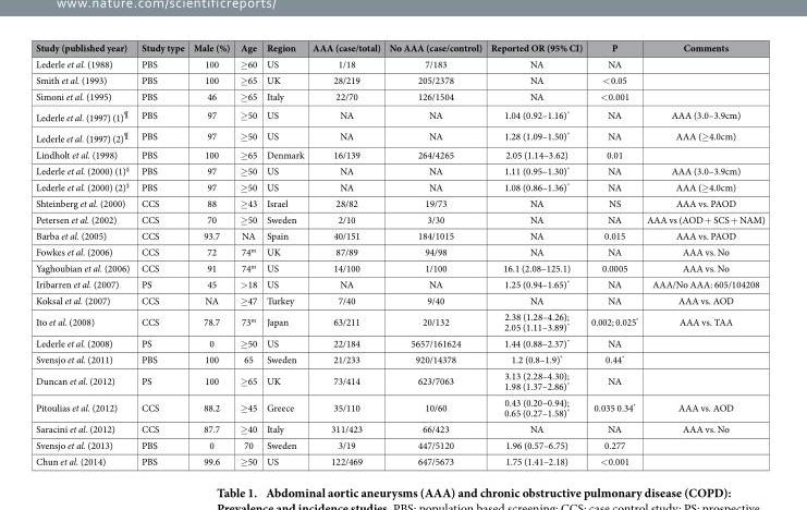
<table><thead><tr><td>Study (published year)</td><td>Study type</td><td>Male (%)</td><td>Age</td><td>Region</td><td>AAA (case/total)</td><td>No AAA (case/control)</td><td>Reported OR (95% CI)</td><td>P</td><td>Comments</td></tr></thead><tbody><tr><td>Lederle et al. (1988)</td><td>PBS</td><td>100</td><td>≥60</td><td>US</td><td>1/18</td><td>7/183</td><td>NA</td><td>NA</td><td></td></tr><tr><td>Smith et al. (1993)</td><td>PBS</td><td>100</td><td>≥65</td><td>UK</td><td>28/219</td><td>205/2378</td><td>NA</td><td>&lt; 0.05</td><td></td></tr><tr><td>Simoni et al. (1995)</td><td>PBS</td><td>46</td><td>≥65</td><td>Italy</td><td>22/70</td><td>126/1504</td><td>NA</td><td>&lt; 0.001</td><td></td></tr><tr><td>Lederle et al. (1997) (1)<sup>¶</sup></td><td>PBS</td><td>97</td><td>≥50</td><td>US</td><td>NA</td><td>NA</td><td>1.04 (0.92–1.16)*</td><td>NA</td><td>AAA (3.0–3.9cm)</td></tr><tr><td>Lederle et al. (1997) (2)<sup>¶</sup></td><td>PBS</td><td>97</td><td>≥50</td><td>US</td><td>NA</td><td>NA</td><td>1.28 (1.09–1.50)*</td><td>NA</td><td>AAA (≥4.0cm)</td></tr><tr><td>Lindholt et al. (1998)</td><td>PBS</td><td>100</td><td>≥65</td><td>Denmark</td><td>16/139</td><td>264/4265</td><td>2.05 (1.14–3.62)</td><td>0.01</td><td></td></tr><tr><td>Lederle et al. (2000) (1)<sup>§</sup></td><td>PBS</td><td>97</td><td>≥50</td><td>US</td><td>NA</td><td>NA</td><td>1.11 (0.95–1.30)*</td><td>NA</td><td>AAA (3.0–3.9cm)</td></tr><tr><td>Lederle et al. (2000) (2)<sup>§</sup></td><td>PBS</td><td>97</td><td>≥50</td><td>US</td><td>NA</td><td>NA</td><td>1.08 (0.86–1.36)*</td><td>NA</td><td>AAA (≥4.0cm)</td></tr><tr><td>Shteinberg et al. (2000)</td><td>CCS</td><td>88</td><td>≥43</td><td>Israel</td><td>28/82</td><td>19/73</td><td>NA</td><td>NS</td><td>AAA vs. PAOD</td></tr><tr><td>Petersen et al. (2002)</td><td>CCS</td><td>70</td><td>≥50</td><td>Sweden</td><td>2/10</td><td>3/30</td><td>NA</td><td>NA</td><td>AAA vs (AOD + SCS + NAM)</td></tr><tr><td>Barba et al. (2005)</td><td>CCS</td><td>93.7</td><td>NA</td><td>Spain</td><td>40/151</td><td>184/1015</td><td>NA</td><td>0.015</td><td>AAA vs. PAOD</td></tr><tr><td>Fowkes et al. (2006)</td><td>CCS</td><td>72</td><td>74<sup>m</sup></td><td>UK</td><td>87/89</td><td>94/98</td><td>NA</td><td>NA</td><td>AAA vs. No</td></tr><tr><td>Yaghoubian et al. (2006)</td><td>CCS</td><td>91</td><td>74<sup>m</sup></td><td>US</td><td>14/100</td><td>1/100</td><td>16.1 (2.08–125.1)</td><td>0.0005</td><td>AAA vs. No</td></tr><tr><td>Iribarren et al. (2007)</td><td>PS</td><td>45</td><td>&gt;18</td><td>US</td><td>NA</td><td>NA</td><td>1.25 (0.94–1.65)*</td><td>NA</td><td>AAA/No AAA: 605/104208</td></tr><tr><td>Koksal et al. (2007)</td><td>CCS</td><td>NA</td><td>≥47</td><td>Turkey</td><td>7/40</td><td>9/40</td><td>NA</td><td>NA</td><td>AAA vs. AOD</td></tr><tr><td>Ito et al. (2008)</td><td>CCS</td><td>78.7</td><td>73<sup>m</sup></td><td>Japan</td><td>63/211</td><td>20/132</td><td>2.38 (1.28–4.26); 2.05 (1.11–3.89)*</td><td>0.002; 0.025*</td><td>AAA vs. TAA</td></tr><tr><td>Lederle et al. (2008)</td><td>PS</td><td>0</td><td>≥50</td><td>US</td><td>22/184</td><td>5657/161624</td><td>1.44 (0.88–2.37)*</td><td>NA</td><td></td></tr><tr><td>Svensjo et al. (2011)</td><td>PBS</td><td>100</td><td>65</td><td>Sweden</td><td>21/233</td><td>920/14378</td><td>1.2 (0.8–1.9)*</td><td>0.44*</td><td></td></tr><tr><td>Duncan et al. (2012)</td><td>PS</td><td>100</td><td>≥65</td><td>UK</td><td>73/414</td><td>623/7063</td><td>3.13 (2.28–4.30); 1.98 (1.37–2.86)*</td><td>NA</td><td></td></tr><tr><td>Pitoulias et al. (2012)</td><td>CCS</td><td>88.2</td><td>≥45</td><td>Greece</td><td>35/110</td><td>10/60</td><td>0.43 (0.20–0.94); 0.65 (0.27–1.58)*</td><td>0.035 0.34*</td><td>AAA vs. AOD</td></tr><tr><td>Saracini et al. (2012)</td><td>CCS</td><td>87.7</td><td>≥40</td><td>Italy</td><td>311/423</td><td>66/423</td><td>NA</td><td>NA</td><td>AAA vs. No</td></tr><tr><td>Svensjo et al. (2013)</td><td>PBS</td><td>0</td><td>70</td><td>Sweden</td><td>3/19</td><td>447/5120</td><td>1.96 (0.57–6.75)</td><td>0.277</td><td></td></tr><tr><td>Chun et al. (2014)</td><td>PBS</td><td>99.6</td><td>≥50</td><td>US</td><td>122/469</td><td>647/5673</td><td>1.75 (1.41–2.18)</td><td>&lt; 0.001</td><td></td></tr></tbody></table>